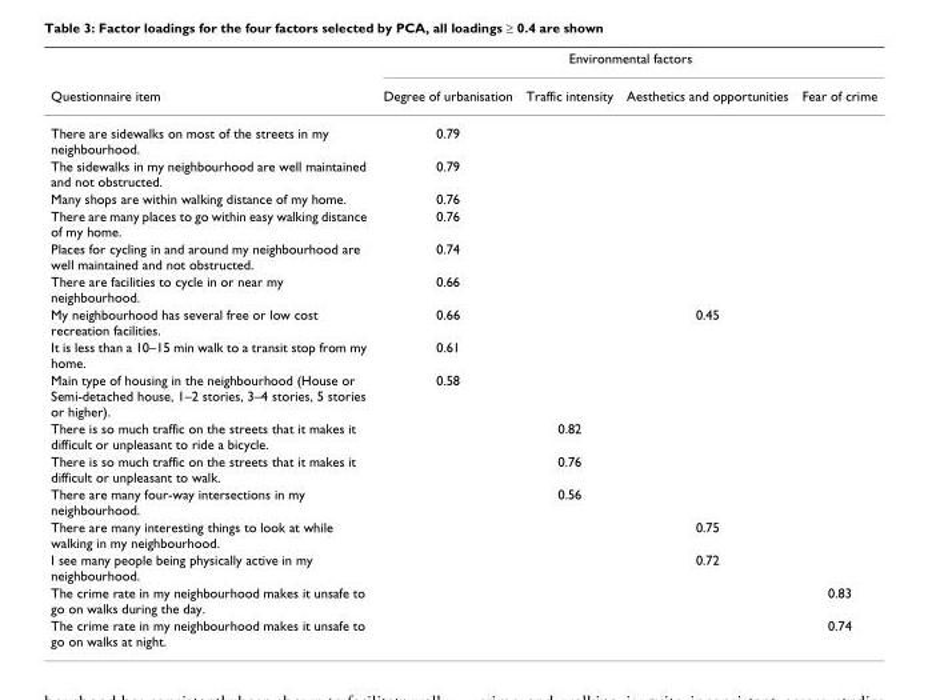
<table><thead><tr><td rowspan="2">Questionnaire item</td><td colspan="4">Environmental factors</td></tr><tr><td>Degree of urbanisation</td><td>Traffic intensity</td><td>Aesthetics and opportunities</td><td>Fear of crime</td></tr></thead><tbody><tr><td>There are sidewalks on most of the streets in my neighbourhood.</td><td>0.79</td><td></td><td></td><td></td></tr><tr><td>The sidewalks in my neighbourhood are well maintained and not obstructed.</td><td>0.79</td><td></td><td></td><td></td></tr><tr><td>Many shops are within walking distance of my home.</td><td>0.76</td><td></td><td></td><td></td></tr><tr><td>There are many places to go within easy walking distance of my home.</td><td>0.76</td><td></td><td></td><td></td></tr><tr><td>Places for cycling in and around my neighbourhood are well maintained and not obstructed.</td><td>0.74</td><td></td><td></td><td></td></tr><tr><td>There are facilities to cycle in or near my neighbourhood.</td><td>0.66</td><td></td><td></td><td></td></tr><tr><td>My neighbourhood has several free or low cost recreation facilities.</td><td>0.66</td><td></td><td>0.45</td><td></td></tr><tr><td>It is less than a 10–15 min walk to a transit stop from my home.</td><td>0.61</td><td></td><td></td><td></td></tr><tr><td>Main type of housing in the neighbourhood (House or Semi-detached house, 1–2 stories, 3–4 stories, 5 stories or higher).</td><td>0.58</td><td></td><td></td><td></td></tr><tr><td>There is so much traffic on the streets that it makes it difficult or unpleasant to ride a bicycle.</td><td></td><td>0.82</td><td></td><td></td></tr><tr><td>There is so much traffic on the streets that it makes it difficult or unpleasant to walk.</td><td></td><td>0.76</td><td></td><td></td></tr><tr><td>There are many four-way intersections in my neighbourhood.</td><td></td><td>0.56</td><td></td><td></td></tr><tr><td>There are many interesting things to look at while walking in my neighbourhood.</td><td></td><td></td><td>0.75</td><td></td></tr><tr><td>I see many people being physically active in my neighbourhood.</td><td></td><td></td><td>0.72</td><td></td></tr><tr><td>The crime rate in my neighbourhood makes it unsafe to go on walks during the day.</td><td></td><td></td><td></td><td>0.83</td></tr><tr><td>The crime rate in my neighbourhood makes it unsafe to go on walks at night.</td><td></td><td></td><td></td><td>0.74</td></tr></tbody></table>